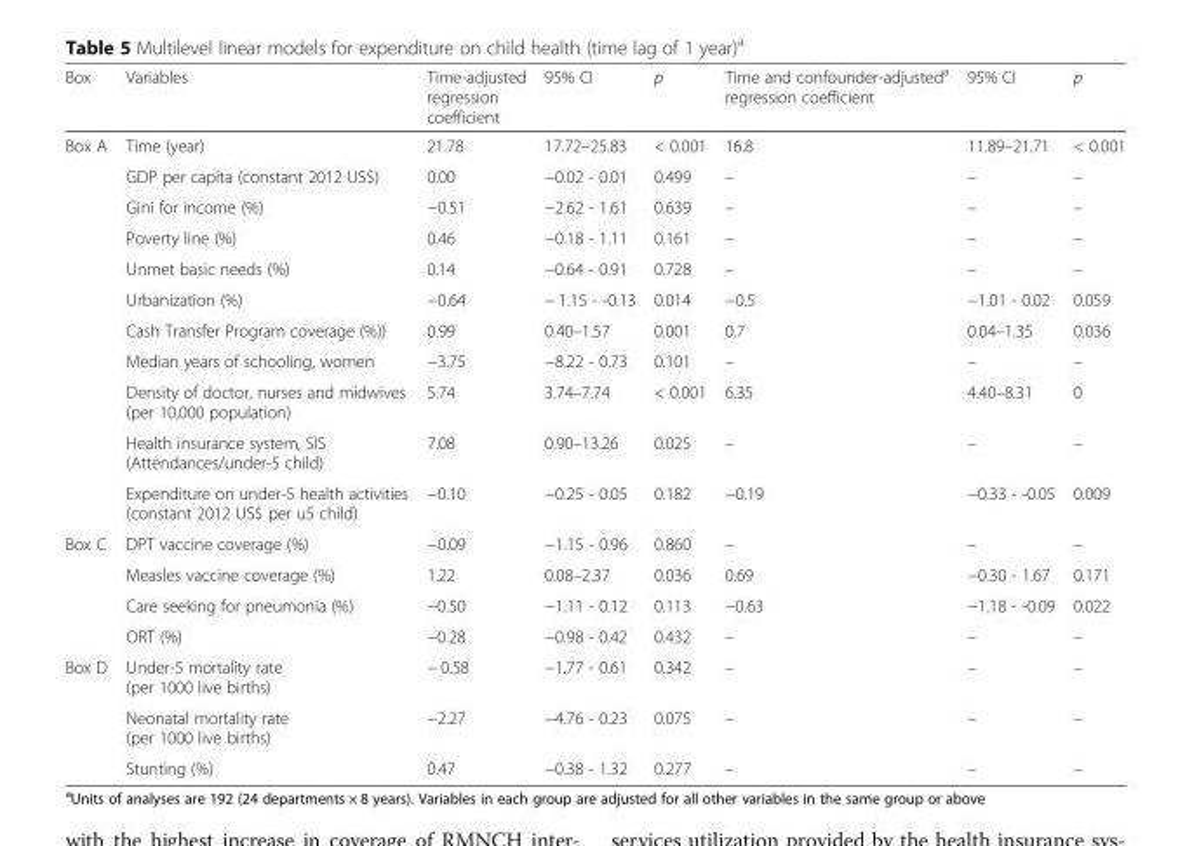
<table><thead><tr><td>Box</td><td>Variables</td><td>Time-adjusted regression coefficient</td><td>95% CI</td><td>p</td><td>Time and confounder-adjusted<sup>a</sup> regression coefficient</td><td>95% CI</td><td>p</td></tr></thead><tbody><tr><td rowspan="11">Box A</td><td>Time (year)</td><td>21.78</td><td>17.72–25.83</td><td>&lt; 0.001</td><td>16.8</td><td>11.89–21.71</td><td>&lt; 0.001</td></tr><tr><td>GDP per capita (constant 2012 US$)</td><td>0.00</td><td>−0.02 - 0.01</td><td>0.499</td><td>–</td><td>–</td><td>–</td></tr><tr><td>Gini for income (%)</td><td>−0.51</td><td>−2.62 - 1.61</td><td>0.639</td><td>–</td><td>–</td><td>–</td></tr><tr><td>Poverty line (%)</td><td>0.46</td><td>−0.18 - 1.11</td><td>0.161</td><td>–</td><td>–</td><td>–</td></tr><tr><td>Unmet basic needs (%)</td><td>0.14</td><td>−0.64 - 0.91</td><td>0.728</td><td>–</td><td>–</td><td>–</td></tr><tr><td>Urbanization (%)</td><td>−0.64</td><td>− 1.15 - -0.13</td><td>0.014</td><td>−0.5</td><td>−1.01 - 0.02</td><td>0.059</td></tr><tr><td>Cash Transfer Program coverage (%))</td><td>0.99</td><td>0.40–1.57</td><td>0.001</td><td>0.7</td><td>0.04–1.35</td><td>0.036</td></tr><tr><td>Median years of schooling, women</td><td>−3.75</td><td>−8.22 - 0.73</td><td>0.101</td><td>–</td><td>–</td><td>–</td></tr><tr><td>Density of doctor, nurses and midwives (per 10,000 population)</td><td>5.74</td><td>3.74–7.74</td><td>&lt; 0.001</td><td>6.35</td><td>4.40–8.31</td><td>0</td></tr><tr><td>Health insurance system, SIS (Attendances/under-5 child)</td><td>7.08</td><td>0.90–13.26</td><td>0.025</td><td>–</td><td>–</td><td>–</td></tr><tr><td>Expenditure on under-5 health activities (constant 2012 US$ per u5 child)</td><td>−0.10</td><td>−0.25 - 0.05</td><td>0.182</td><td>−0.19</td><td>−0.33 - -0.05</td><td>0.009</td></tr><tr><td rowspan="4">Box C</td><td>DPT vaccine coverage (%)</td><td>−0.09</td><td>−1.15 - 0.96</td><td>0.860</td><td>–</td><td>–</td><td>–</td></tr><tr><td>Measles vaccine coverage (%)</td><td>1.22</td><td>0.08–2.37</td><td>0.036</td><td>0.69</td><td>−0.30 - 1.67</td><td>0.171</td></tr><tr><td>Care seeking for pneumonia (%)</td><td>−0.50</td><td>−1.11 - 0.12</td><td>0.113</td><td>−0.63</td><td>−1.18 - -0.09</td><td>0.022</td></tr><tr><td>ORT (%)</td><td>−0.28</td><td>−0.98 - 0.42</td><td>0.432</td><td>–</td><td>–</td><td>–</td></tr><tr><td rowspan="3">Box D</td><td>Under-5 mortality rate (per 1000 live births)</td><td>− 0.58</td><td>−1.77 - 0.61</td><td>0.342</td><td>–</td><td>–</td><td>–</td></tr><tr><td>Neonatal mortality rate (per 1000 live births)</td><td>−2.27</td><td>−4.76 - 0.23</td><td>0.075</td><td>–</td><td>–</td><td>–</td></tr><tr><td>Stunting (%)</td><td>0.47</td><td>−0.38 - 1.32</td><td>0.277</td><td>–</td><td>–</td><td>–</td></tr></tbody></table>